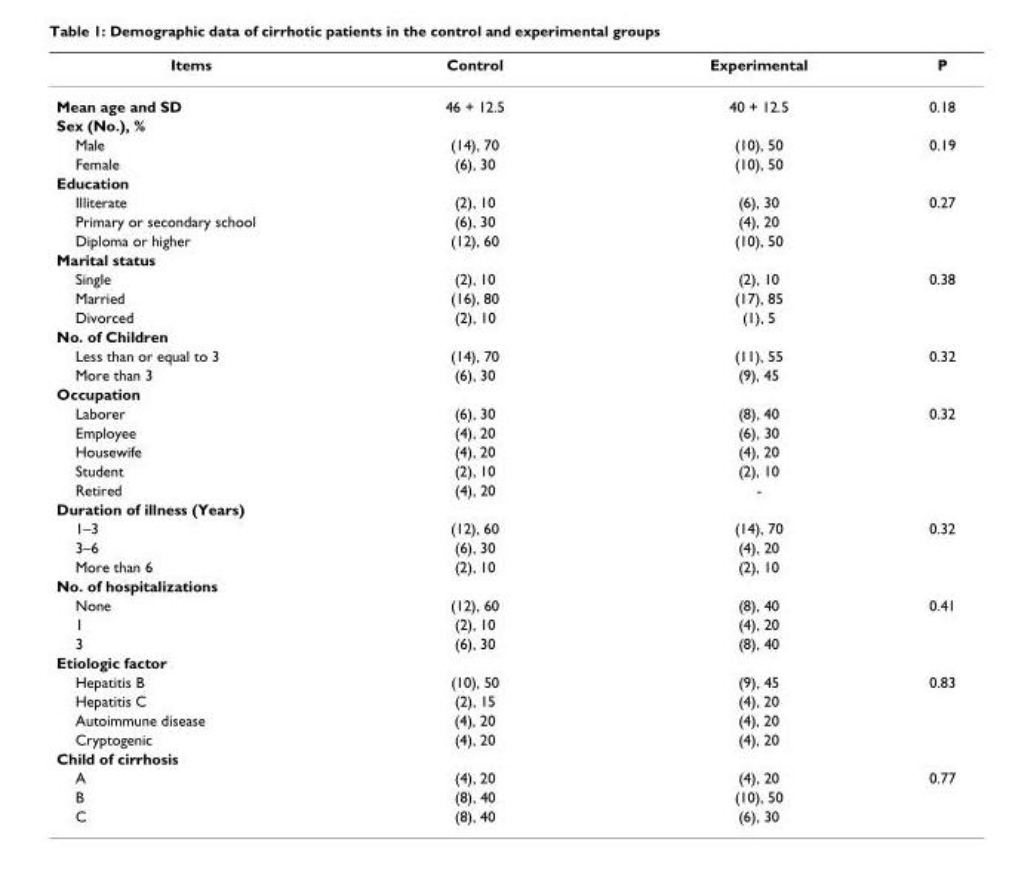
<table><thead><tr><td>Items</td><td>Control</td><td>Experimental</td><td>P</td></tr></thead><tbody><tr><td>Mean age and SD</td><td>46 + 12.5</td><td>40 + 12.5</td><td>0.18</td></tr><tr><td colspan="4">Sex (No.), %</td></tr><tr><td>Male</td><td>(14), 70</td><td>(10), 50</td><td>0.19</td></tr><tr><td>Female</td><td>(6), 30</td><td>(10), 50</td><td></td></tr><tr><td colspan="4">Education</td></tr><tr><td>Illiterate</td><td>(2), 10</td><td>(6), 30</td><td>0.27</td></tr><tr><td>Primary or secondary school</td><td>(6), 30</td><td>(4), 20</td><td></td></tr><tr><td>Diploma or higher</td><td>(12), 60</td><td>(10), 50</td><td></td></tr><tr><td colspan="4">Marital status</td></tr><tr><td>Single</td><td>(2), 10</td><td>(2), 10</td><td>0.38</td></tr><tr><td>Married</td><td>(16), 80</td><td>(17), 85</td><td></td></tr><tr><td>Divorced</td><td>(2), 10</td><td>(1), 5</td><td></td></tr><tr><td colspan="4">No. of Children</td></tr><tr><td>Less than or equal to 3</td><td>(14), 70</td><td>(11), 55</td><td>0.32</td></tr><tr><td>More than 3</td><td>(6), 30</td><td>(9), 45</td><td></td></tr><tr><td colspan="4">Occupation</td></tr><tr><td>Laborer</td><td>(6), 30</td><td>(8), 40</td><td>0.32</td></tr><tr><td>Employee</td><td>(4), 20</td><td>(6), 30</td><td></td></tr><tr><td>Housewife</td><td>(4), 20</td><td>(4), 20</td><td></td></tr><tr><td>Student</td><td>(2), 10</td><td>(2), 10</td><td></td></tr><tr><td>Retired</td><td>(4), 20</td><td>-</td><td></td></tr><tr><td colspan="4">Duration of illness (Years)</td></tr><tr><td>1–3</td><td>(12), 60</td><td>(14), 70</td><td>0.32</td></tr><tr><td>3–6</td><td>(6), 30</td><td>(4), 20</td><td></td></tr><tr><td>More than 6</td><td>(2), 10</td><td>(2), 10</td><td></td></tr><tr><td colspan="4">No. of hospitalizations</td></tr><tr><td>None</td><td>(12), 60</td><td>(8), 40</td><td>0.41</td></tr><tr><td>1</td><td>(2), 10</td><td>(4), 20</td><td></td></tr><tr><td>3</td><td>(6), 30</td><td>(8), 40</td><td></td></tr><tr><td colspan="4">Etiologic factor</td></tr><tr><td>Hepatitis B</td><td>(10), 50</td><td>(9), 45</td><td>0.83</td></tr><tr><td>Hepatitis C</td><td>(2), 15</td><td>(4), 20</td><td></td></tr><tr><td>Autoimmune disease</td><td>(4), 20</td><td>(4), 20</td><td></td></tr><tr><td>Cryptogenic</td><td>(4), 20</td><td>(4), 20</td><td></td></tr><tr><td colspan="4">Child of cirrhosis</td></tr><tr><td>A</td><td>(4), 20</td><td>(4), 20</td><td>0.77</td></tr><tr><td>B</td><td>(8), 40</td><td>(10), 50</td><td></td></tr><tr><td>C</td><td>(8), 40</td><td>(6), 30</td><td></td></tr></tbody></table>